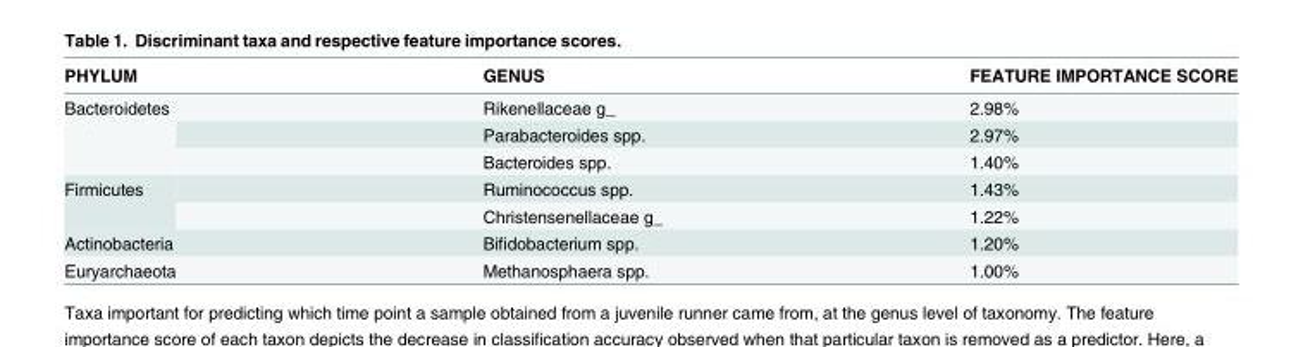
<table><thead><tr><td>PHYLUM</td><td>GENUS</td><td>FEATURE IMPORTANCE SCORE</td></tr></thead><tbody><tr><td rowspan="3">Bacteroidetes</td><td>Rikenellaceae g_</td><td>2.98%</td></tr><tr><td>Parabacteroides spp.</td><td>2.97%</td></tr><tr><td>Bacteroides spp.</td><td>1.40%</td></tr><tr><td rowspan="2">Firmicutes</td><td>Ruminococcus spp.</td><td>1.43%</td></tr><tr><td>Christensenellaceae g_</td><td>1.22%</td></tr><tr><td>Actinobacteria</td><td>Bifidobacterium spp.</td><td>1.20%</td></tr><tr><td>Euryarchaeota</td><td>Methanosphaera spp.</td><td>1.00%</td></tr></tbody></table>